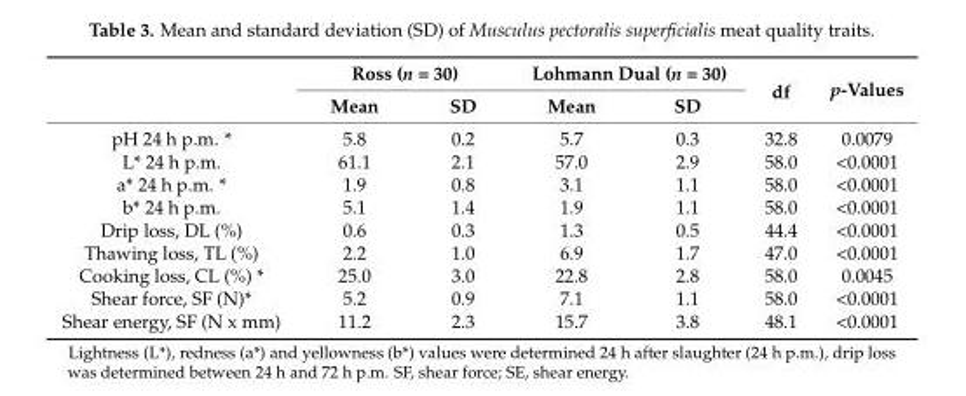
<table><thead><tr><td rowspan="2"></td><td colspan="2">Ross (n = 30)</td><td colspan="2">Lohmann Dual (n = 30)</td><td rowspan="2">df</td><td rowspan="2">p-Values</td></tr><tr><td>Mean</td><td>SD</td><td>Mean</td><td>SD</td></tr></thead><tbody><tr><td>pH 24 h p.m. *</td><td>5.8</td><td>0.2</td><td>5.7</td><td>0.3</td><td>32.8</td><td>0.0079</td></tr><tr><td>L* 24 h p.m.</td><td>61.1</td><td>2.1</td><td>57.0</td><td>2.9</td><td>58.0</td><td>&lt;0.0001</td></tr><tr><td>a* 24 h p.m. *</td><td>1.9</td><td>0.8</td><td>3.1</td><td>1.1</td><td>58.0</td><td>&lt;0.0001</td></tr><tr><td>b* 24 h p.m.</td><td>5.1</td><td>1.4</td><td>1.9</td><td>1.1</td><td>58.0</td><td>&lt;0.0001</td></tr><tr><td>Drip loss, DL (%)</td><td>0.6</td><td>0.3</td><td>1.3</td><td>0.5</td><td>44.4</td><td>&lt;0.0001</td></tr><tr><td>Thawing loss, TL (%)</td><td>2.2</td><td>1.0</td><td>6.9</td><td>1.7</td><td>47.0</td><td>&lt;0.0001</td></tr><tr><td>Cooking loss, CL (%) *</td><td>25.0</td><td>3.0</td><td>22.8</td><td>2.8</td><td>58.0</td><td>0.0045</td></tr><tr><td>Shear force, SF (N)*</td><td>5.2</td><td>0.9</td><td>7.1</td><td>1.1</td><td>58.0</td><td>&lt;0.0001</td></tr><tr><td>Shear energy, SF (N x mm)</td><td>11.2</td><td>2.3</td><td>15.7</td><td>3.8</td><td>48.1</td><td>&lt;0.0001</td></tr></tbody></table>